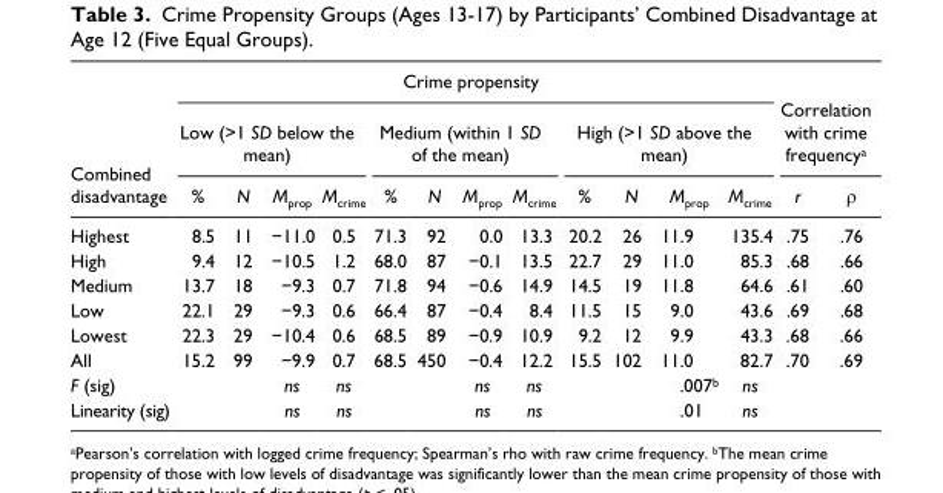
<table><thead><tr><td rowspan="3">Combined disadvantage</td><td colspan="12">Crime propensity</td><td rowspan="2" colspan="2">Correlation with crime frequency<sup>a</sup></td></tr><tr><td colspan="4">Low (&gt;1 SD below the mean)</td><td colspan="4">Medium (within 1 SD of the mean)</td><td colspan="4">High (&gt;1 SD above the mean)</td></tr><tr><td>%</td><td>N</td><td>M<sub>prop</sub></td><td>M<sub>crime</sub></td><td>%</td><td>N</td><td>M<sub>prop</sub></td><td>M<sub>crime</sub></td><td>%</td><td>N</td><td>M<sub>prop</sub></td><td>M<sub>crime</sub></td><td>r</td><td>ρ</td></tr></thead><tbody><tr><td>Highest</td><td>8.5</td><td>11</td><td>−11.0</td><td>0.5</td><td>71.3</td><td>92</td><td>0.0</td><td>13.3</td><td>20.2</td><td>26</td><td>11.9</td><td>135.4</td><td>.75</td><td>.76</td></tr><tr><td>High</td><td>9.4</td><td>12</td><td>−10.5</td><td>1.2</td><td>68.0</td><td>87</td><td>−0.1</td><td>13.5</td><td>22.7</td><td>29</td><td>11.0</td><td>85.3</td><td>.68</td><td>.66</td></tr><tr><td>Medium</td><td>13.7</td><td>18</td><td>−9.3</td><td>0.7</td><td>71.8</td><td>94</td><td>−0.6</td><td>14.9</td><td>14.5</td><td>19</td><td>11.8</td><td>64.6</td><td>.61</td><td>.60</td></tr><tr><td>Low</td><td>22.1</td><td>29</td><td>−9.3</td><td>0.6</td><td>66.4</td><td>87</td><td>−0.4</td><td>8.4</td><td>11.5</td><td>15</td><td>9.0</td><td>43.6</td><td>.69</td><td>.68</td></tr><tr><td>Lowest</td><td>22.3</td><td>29</td><td>−10.4</td><td>0.6</td><td>68.5</td><td>89</td><td>−0.9</td><td>10.9</td><td>9.2</td><td>12</td><td>9.9</td><td>43.3</td><td>.68</td><td>.66</td></tr><tr><td>All</td><td>15.2</td><td>99</td><td>−9.9</td><td>0.7</td><td>68.5</td><td>450</td><td>−0.4</td><td>12.2</td><td>15.5</td><td>102</td><td>11.0</td><td>82.7</td><td>.70</td><td>.69</td></tr><tr><td>F (sig)</td><td></td><td></td><td>ns</td><td>ns</td><td></td><td></td><td>ns</td><td>ns</td><td></td><td></td><td>.007<sup>b</sup></td><td>ns</td><td></td><td></td></tr><tr><td>Linearity (sig)</td><td></td><td></td><td>ns</td><td>ns</td><td></td><td></td><td>ns</td><td>ns</td><td></td><td></td><td>.01</td><td>ns</td><td></td><td></td></tr></tbody></table>